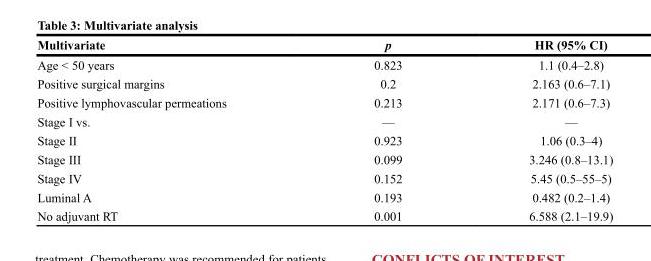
<table><thead><tr><td>Multivariate</td><td>p</td><td>HR (95% CI)</td></tr></thead><tbody><tr><td>Age &lt; 50 years</td><td>0.823</td><td>1.1 (0.4–2.8)</td></tr><tr><td>Positive surgical margins</td><td>0.2</td><td>2.163 (0.6–7.1)</td></tr><tr><td>Positive lymphovascular permeations</td><td>0.213</td><td>2.171 (0.6–7.3)</td></tr><tr><td>Stage I vs.</td><td>—</td><td>—</td></tr><tr><td>Stage II</td><td>0.923</td><td>1.06 (0.3–4)</td></tr><tr><td>Stage III</td><td>0.099</td><td>3.246 (0.8–13.1)</td></tr><tr><td>Stage IV</td><td>0.152</td><td>5.45 (0.5–55–5)</td></tr><tr><td>Luminal A</td><td>0.193</td><td>0.482 (0.2–1.4)</td></tr><tr><td>No adjuvant RT</td><td>0.001</td><td>6.588 (2.1–19.9)</td></tr></tbody></table>